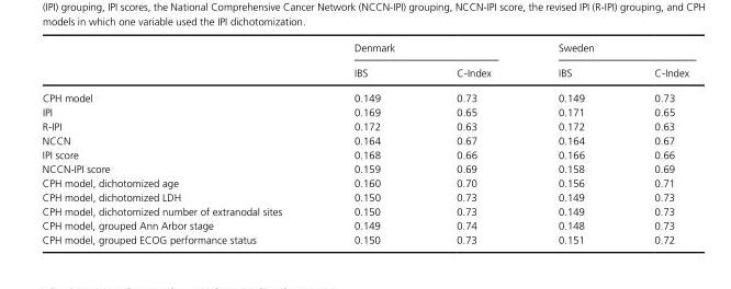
<table><thead><tr><td rowspan="2"></td><td colspan="2">Denmark</td><td colspan="2">Sweden</td></tr><tr><td>IBS</td><td>C- Index</td><td>IBS</td><td>C- Index</td></tr></thead><tbody><tr><td>CPH model</td><td>0.149</td><td>0.73</td><td>0.149</td><td>0.73</td></tr><tr><td>IPI</td><td>0.169</td><td>0.65</td><td>0.171</td><td>0.65</td></tr><tr><td>R- IPI</td><td>0.172</td><td>0.63</td><td>0.172</td><td>0.63</td></tr><tr><td>NCCN</td><td>0.164</td><td>0.67</td><td>0.164</td><td>0.67</td></tr><tr><td>IPI score</td><td>0.168</td><td>0.66</td><td>0.166</td><td>0.66</td></tr><tr><td>NCCN- IPI score</td><td>0.159</td><td>0.69</td><td>0.158</td><td>0.69</td></tr><tr><td>CPH model, dichotomized age</td><td>0.160</td><td>0.70</td><td>0.156</td><td>0.71</td></tr><tr><td>CPH model, dichotomized LDH</td><td>0.150</td><td>0.73</td><td>0.149</td><td>0.73</td></tr><tr><td>CPH model, dichotomized number of extranodal sites</td><td>0.150</td><td>0.73</td><td>0.149</td><td>0.73</td></tr><tr><td>CPH model, grouped Ann Arbor stage</td><td>0.149</td><td>0.74</td><td>0.148</td><td>0.73</td></tr><tr><td>CPH model, grouped ECOG performance status</td><td>0.150</td><td>0.73</td><td>0.151</td><td>0.72</td></tr></tbody></table>